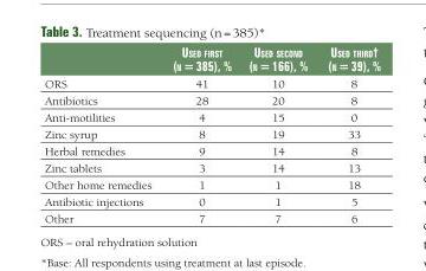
<table><thead><tr><td></td><td>uSed firSt (n = 385), %</td><td>uSed Second (n = 166), %</td><td>uSed third† (n = 39), %</td></tr></thead><tbody><tr><td>ORS</td><td>41</td><td>10</td><td>8</td></tr><tr><td>Antibiotics</td><td>28</td><td>20</td><td>8</td></tr><tr><td>Anti-motilities</td><td>4</td><td>15</td><td>0</td></tr><tr><td>Zinc syrup</td><td>8</td><td>19</td><td>33</td></tr><tr><td>Herbal remedies</td><td>9</td><td>14</td><td>8</td></tr><tr><td>Zinc tablets</td><td>3</td><td>14</td><td>13</td></tr><tr><td>Other home remedies</td><td>1</td><td>1</td><td>18</td></tr><tr><td>Antibiotic injections</td><td>0</td><td>1</td><td>5</td></tr><tr><td>Other</td><td>7</td><td>7</td><td>6</td></tr></tbody></table>